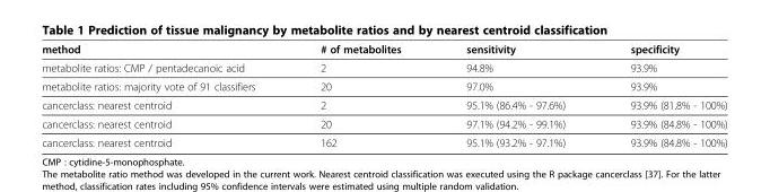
<table><thead><tr><td>method</td><td># of metabolites</td><td>sensitivity</td><td>specificity</td></tr></thead><tbody><tr><td>metabolite ratios: CMP / pentadecanoic acid</td><td>2</td><td>94.8%</td><td>93.9%</td></tr><tr><td>metabolite ratios: majority vote of 91 classifiers</td><td>20</td><td>97.0%</td><td>93.9%</td></tr><tr><td>cancerclass: nearest centroid</td><td>2</td><td>95.1% (86.4% - 97.6%)</td><td>93.9% (81.8% - 100%)</td></tr><tr><td>cancerclass: nearest centroid</td><td>20</td><td>97.1% (94.2% - 99.1%)</td><td>93.9% (84.8% - 100%)</td></tr><tr><td>cancerclass: nearest centroid</td><td>162</td><td>95.1% (93.2% - 97.1%)</td><td>93.9% (84.8% - 100%)</td></tr></tbody></table>